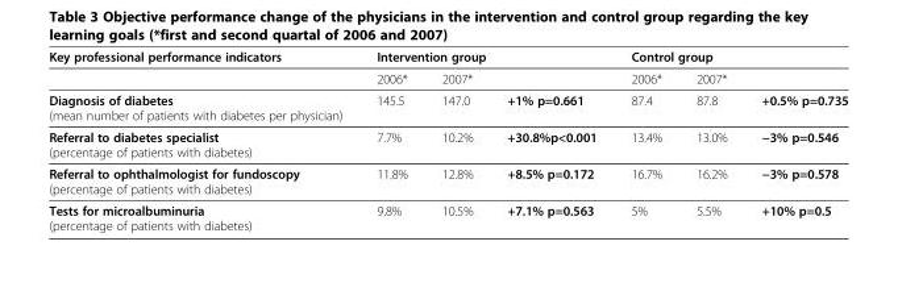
<table><thead><tr><td rowspan="2">Key professional performance indicators</td><td colspan="3">Intervention group</td><td colspan="3">Control group</td></tr><tr><td>2006*</td><td>2007*</td><td></td><td>2006*</td><td>2007*</td><td></td></tr></thead><tbody><tr><td>Diagnosis of diabetes (mean number of patients with diabetes per physician)</td><td>145.5</td><td>147.0</td><td>+1% p=0.661</td><td>87.4</td><td>87.8</td><td>+0.5% p=0.735</td></tr><tr><td>Referral to diabetes specialist (percentage of patients with diabetes)</td><td>7.7%</td><td>10.2%</td><td>+30.8%p&lt;0.001</td><td>13.4%</td><td>13.0%</td><td>−3% p=0.546</td></tr><tr><td>Referral to ophthalmologist for fundoscopy (percentage of patients with diabetes)</td><td>11.8%</td><td>12.8%</td><td>+8.5% p=0.172</td><td>16.7%</td><td>16.2%</td><td>−3% p=0.578</td></tr><tr><td>Tests for microalbuminuria (percentage of patients with diabetes)</td><td>9.8%</td><td>10.5%</td><td>+7.1% p=0.563</td><td>5%</td><td>5.5%</td><td>+10% p=0.5</td></tr></tbody></table>